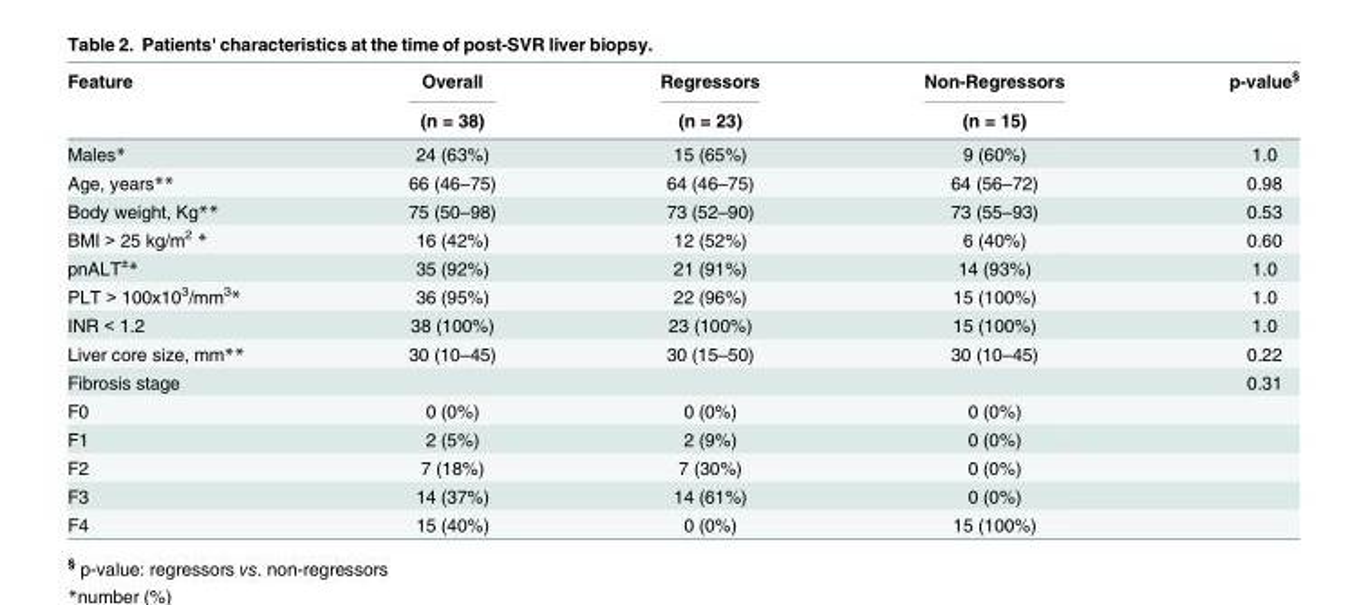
<table><thead><tr><td rowspan="2">Feature</td><td rowspan="2">Overall (n = 38)</td><td rowspan="2">Regressors (n = 23)</td><td rowspan="2">Non-Regressors (n = 15)</td><td rowspan="2">p-value<sup>§</sup></td></tr><tr></tr></thead><tbody><tr><td>Males*</td><td>24 (63%)</td><td>15 (65%)</td><td>9 (60%)</td><td>1.0</td></tr><tr><td>Age, years**</td><td>66 (46–75)</td><td>64 (46–75)</td><td>64 (56–72)</td><td>0.98</td></tr><tr><td>Body weight, Kg**</td><td>75 (50–98)</td><td>73 (52–90)</td><td>73 (55–93)</td><td>0.53</td></tr><tr><td>BMI &gt; 25 kg/m<sup>2</sup> *</td><td>16 (42%)</td><td>12 (52%)</td><td>6 (40%)</td><td>0.60</td></tr><tr><td>pnALT<sup>±</sup>*</td><td>35 (92%)</td><td>21 (91%)</td><td>14 (93%)</td><td>1.0</td></tr><tr><td>PLT &gt; 100x10<sup>3</sup>/mm<sup>3</sup>*</td><td>36 (95%)</td><td>22 (96%)</td><td>15 (100%)</td><td>1.0</td></tr><tr><td>INR &lt; 1.2</td><td>38 (100%)</td><td>23 (100%)</td><td>15 (100%)</td><td>1.0</td></tr><tr><td>Liver core size, mm**</td><td>30 (10–45)</td><td>30 (15–50)</td><td>30 (10–45)</td><td>0.22</td></tr><tr><td>Fibrosis stage</td><td></td><td></td><td></td><td>0.31</td></tr><tr><td>F0</td><td>0 (0%)</td><td>0 (0%)</td><td>0 (0%)</td><td></td></tr><tr><td>F1</td><td>2 (5%)</td><td>2 (9%)</td><td>0 (0%)</td><td></td></tr><tr><td>F2</td><td>7 (18%)</td><td>7 (30%)</td><td>0 (0%)</td><td></td></tr><tr><td>F3</td><td>14 (37%)</td><td>14 (61%)</td><td>0 (0%)</td><td></td></tr><tr><td>F4</td><td>15 (40%)</td><td>0 (0%)</td><td>15 (100%)</td><td></td></tr></tbody></table>